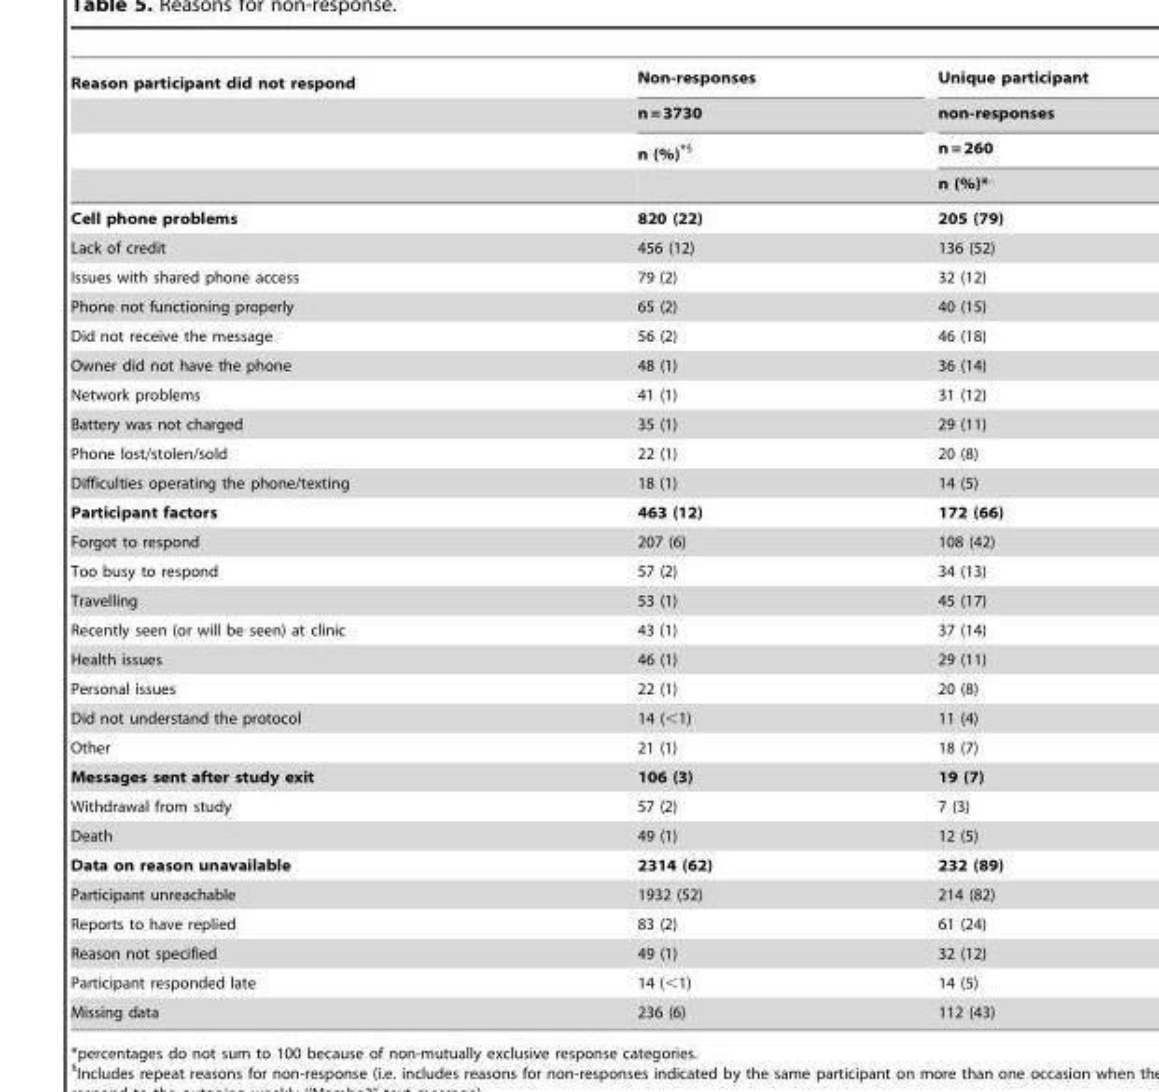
<table><thead><tr><td rowspan="4">Reason participant did not respond</td><td rowspan="4">Non-responses n = 3730 n (%)*§</td><td rowspan="4">Unique participant non-responses n = 260 n (%)*‘</td></tr><tr></tr><tr></tr><tr></tr></thead><tbody><tr><td>Cell phone problems</td><td>820 (22)</td><td>205 (79)</td></tr><tr><td>Lack of credit</td><td>456 (12)</td><td>136 (52)</td></tr><tr><td>Issues with shared phone access</td><td>79 (2)</td><td>32 (12)</td></tr><tr><td>Phone not functioning properly</td><td>65 (2)</td><td>40 (15)</td></tr><tr><td>Did not receive the message</td><td>56 (2)</td><td>46 (18)</td></tr><tr><td>Owner did not have the phone</td><td>48 (1)</td><td>36 (14)</td></tr><tr><td>Network problems</td><td>41 (1)</td><td>31 (12)</td></tr><tr><td>Battery was not charged</td><td>35 (1)</td><td>29 (11)</td></tr><tr><td>Phone lost/stolen/sold</td><td>22 (1)</td><td>20 (8)</td></tr><tr><td>Difficulties operating the phone/texting</td><td>18 (1)</td><td>14 (5)</td></tr><tr><td>Participant factors</td><td>463 (12)</td><td>172 (66)</td></tr><tr><td>Forgot to respond</td><td>207 (6)</td><td>108 (42)</td></tr><tr><td>Too busy to respond</td><td>57 (2)</td><td>34 (13)</td></tr><tr><td>Travelling</td><td>53 (1)</td><td>45 (17)</td></tr><tr><td>Recently seen (or will be seen) at clinic</td><td>43 (1)</td><td>37 (14)</td></tr><tr><td>Health issues</td><td>46 (1)</td><td>29 (11)</td></tr><tr><td>Personal issues</td><td>22 (1)</td><td>20 (8)</td></tr><tr><td>Did not understand the protocol</td><td>14 (&lt;1)</td><td>11 (4)</td></tr><tr><td>Other</td><td>21 (1)</td><td>18 (7)</td></tr><tr><td>Messages sent after study exit</td><td>106 (3)</td><td>19 (7)</td></tr><tr><td>Withdrawal from study</td><td>57 (2)</td><td>7 (3)</td></tr><tr><td>Death</td><td>49 (1)</td><td>12 (5)</td></tr><tr><td>Data on reason unavailable</td><td>2314 (62)</td><td>232 (89)</td></tr><tr><td>Participant unreachable</td><td>1932 (52)</td><td>214 (82)</td></tr><tr><td>Reports to have replied</td><td>83 (2)</td><td>61 (24)</td></tr><tr><td>Reason not specified</td><td>49 (1)</td><td>32 (12)</td></tr><tr><td>Participant responded late</td><td>14 (&lt;1)</td><td>14 (5)</td></tr><tr><td>Missing data</td><td>236 (6)</td><td>112 (43)</td></tr></tbody></table>